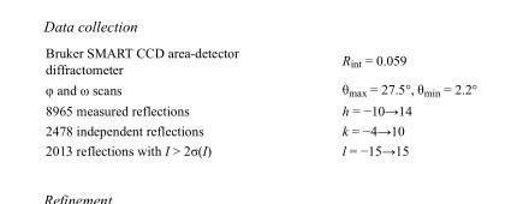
<table><tbody><tr><td>Bruker SMART CCD area-detector diffractometer</td><td>R<sub>int</sub> = 0.059</td></tr><tr><td>φ and ω scans</td><td>θ<sub>max</sub> = 27.5°, θ<sub>min</sub> = 2.2°</td></tr><tr><td>8965 measured reflections</td><td>h = −10→14</td></tr><tr><td>2478 independent reflections</td><td>k = −4→10</td></tr><tr><td>2013 reflections with I &gt; 2σ(I)</td><td>l = −15→15</td></tr></tbody></table>